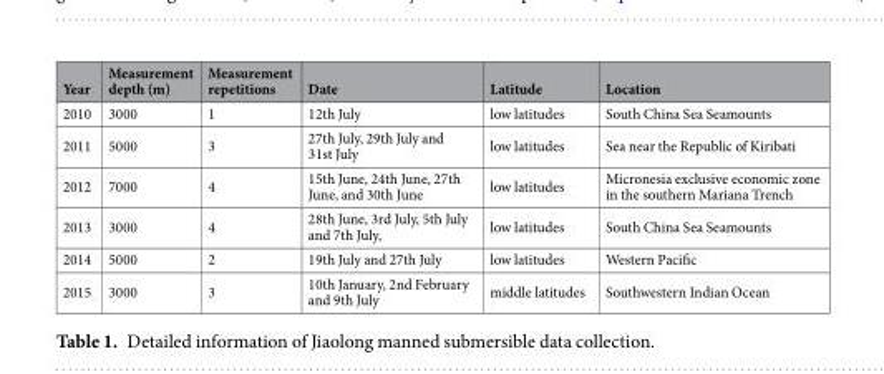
<table><thead><tr><td>Year</td><td>Measurement depth (m)</td><td>Measurement repetitions</td><td>Date</td><td>Latitude</td><td>Location</td></tr></thead><tbody><tr><td>2010</td><td>3000</td><td>1</td><td>12th July</td><td>low latitudes</td><td>South China Sea Seamounts</td></tr><tr><td>2011</td><td>5000</td><td>3</td><td>27th July, 29th July and 31st July</td><td>low latitudes</td><td>Sea near the Republic of Kiribati</td></tr><tr><td>2012</td><td>7000</td><td>4</td><td>15th June, 24th June, 27th June, and 30th June</td><td>low latitudes</td><td>Micronesia exclusive economic zone in the southern Mariana Trench</td></tr><tr><td>2013</td><td>3000</td><td>4</td><td>28th June, 3rd July, 5th July and 7th July,</td><td>low latitudes</td><td>South China Sea Seamounts</td></tr><tr><td>2014</td><td>5000</td><td>2</td><td>19th July and 27th July</td><td>low latitudes</td><td>Western Pacific</td></tr><tr><td>2015</td><td>3000</td><td>3</td><td>10th January, 2nd February and 9th July</td><td>middle latitudes</td><td>Southwestern Indian Ocean</td></tr></tbody></table>